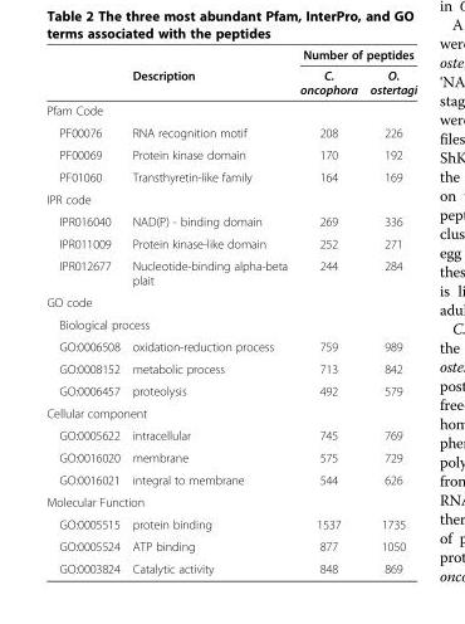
<table><thead><tr><td rowspan="2"></td><td rowspan="2">Description</td><td colspan="2">Number of peptides</td></tr><tr><td>C. oncophora</td><td>O. ostertagi</td></tr></thead><tbody><tr><td colspan="4">Pfam Code</td></tr><tr><td>PF00076</td><td>RNA recognition motif</td><td>208</td><td>226</td></tr><tr><td>PF00069</td><td>Protein kinase domain</td><td>170</td><td>192</td></tr><tr><td>PF01060</td><td>Transthyretin-like family</td><td>164</td><td>169</td></tr><tr><td colspan="4">IPR code</td></tr><tr><td>IPR016040</td><td>NAD(P) - binding domain</td><td>269</td><td>336</td></tr><tr><td>IPR011009</td><td>Protein kinase-like domain</td><td>252</td><td>271</td></tr><tr><td>IPR012677</td><td>Nucleotide-binding alpha-beta plait</td><td>244</td><td>284</td></tr><tr><td colspan="4">GO code</td></tr><tr><td colspan="4">Biological process</td></tr><tr><td>GO:0006508</td><td>oxidation-reduction process</td><td>759</td><td>989</td></tr><tr><td>GO:0008152</td><td>metabolic process</td><td>713</td><td>842</td></tr><tr><td>GO:0006457</td><td>proteolysis</td><td>492</td><td>579</td></tr><tr><td colspan="4">Cellular component</td></tr><tr><td>GO:0005622</td><td>intracellular</td><td>745</td><td>769</td></tr><tr><td>GO:0016020</td><td>membrane</td><td>575</td><td>729</td></tr><tr><td>GO:0016021</td><td>integral to membrane</td><td>544</td><td>626</td></tr><tr><td colspan="4">Molecular Function</td></tr><tr><td>GO:0005515</td><td>protein binding</td><td>1537</td><td>1735</td></tr><tr><td>GO:0005524</td><td>ATP binding</td><td>877</td><td>1050</td></tr><tr><td>GO:0003824</td><td>Catalytic activity</td><td>848</td><td>869</td></tr></tbody></table>